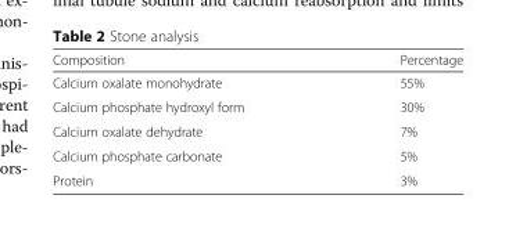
<table><thead><tr><td>Composition</td><td>Percentage</td></tr></thead><tbody><tr><td>Calcium oxalate monohydrate</td><td>55%</td></tr><tr><td>Calcium phosphate hydroxyl form</td><td>30%</td></tr><tr><td>Calcium oxalate dehydrate</td><td>7%</td></tr><tr><td>Calcium phosphate carbonate</td><td>5%</td></tr><tr><td>Protein</td><td>3%</td></tr></tbody></table>